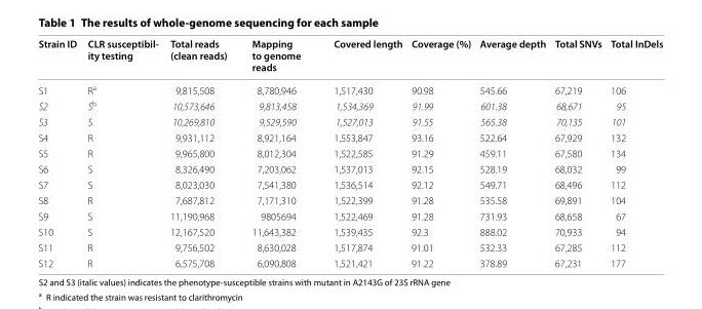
<table><thead><tr><td>Strain ID</td><td>CLR susceptibil‑ ity testing</td><td>Total reads (clean reads)</td><td>Mapping to genome reads</td><td>Covered length</td><td>Coverage (%)</td><td>Average depth</td><td>Total SNVs</td><td>Total InDels</td></tr></thead><tbody><tr><td>S1</td><td>R<sup>a</sup></td><td>9,815,508</td><td>8,780,946</td><td>1,517,430</td><td>90.98</td><td>545.66</td><td>67,219</td><td>106</td></tr><tr><td>S2</td><td>S<sup>b</sup></td><td>10,573,646</td><td>9,813,458</td><td>1,534,369</td><td>91.99</td><td>601.38</td><td>68,671</td><td>95</td></tr><tr><td>S3</td><td>S</td><td>10,269,810</td><td>9,529,590</td><td>1,527,013</td><td>91.55</td><td>565.38</td><td>70,135</td><td>101</td></tr><tr><td>S4</td><td>R</td><td>9,931,112</td><td>8,921,164</td><td>1,553,847</td><td>93.16</td><td>522.64</td><td>67,929</td><td>132</td></tr><tr><td>S5</td><td>R</td><td>9,965,800</td><td>8,012,304</td><td>1,522,585</td><td>91.29</td><td>459.11</td><td>67,580</td><td>134</td></tr><tr><td>S6</td><td>S</td><td>8,326,490</td><td>7,203,062</td><td>1,537,013</td><td>92.15</td><td>528.19</td><td>68,032</td><td>99</td></tr><tr><td>S7</td><td>S</td><td>8,023,030</td><td>7,541,380</td><td>1,536,514</td><td>92.12</td><td>549.71</td><td>68,496</td><td>112</td></tr><tr><td>S8</td><td>R</td><td>7,687,812</td><td>7,171,310</td><td>1,522,399</td><td>91.28</td><td>535.58</td><td>69,891</td><td>104</td></tr><tr><td>S9</td><td>S</td><td>11,190,968</td><td>9805694</td><td>1,522,469</td><td>91.28</td><td>731.93</td><td>68,658</td><td>67</td></tr><tr><td>S10</td><td>S</td><td>12,167,520</td><td>11,643,382</td><td>1,539,435</td><td>92.3</td><td>888.02</td><td>70,933</td><td>94</td></tr><tr><td>S11</td><td>R</td><td>9,756,502</td><td>8,630,028</td><td>1,517,874</td><td>91.01</td><td>532.33</td><td>67,285</td><td>112</td></tr><tr><td>S12</td><td>R</td><td>6,575,708</td><td>6,090,808</td><td>1,521,421</td><td>91.22</td><td>378.89</td><td>67,231</td><td>177</td></tr></tbody></table>